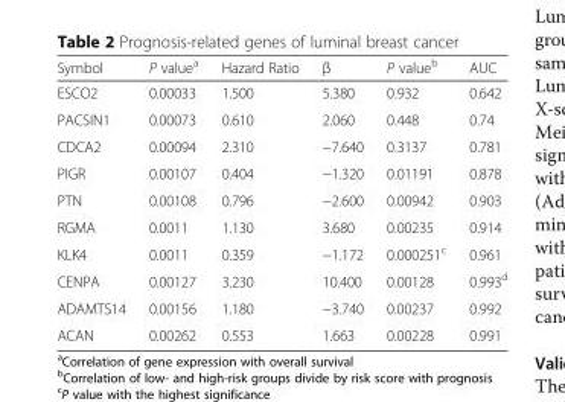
<table><thead><tr><td>Symbol</td><td>P value<sup>a</sup></td><td>Hazard Ratio</td><td>β</td><td>P value<sup>b</sup></td><td>AUC</td></tr></thead><tbody><tr><td>ESCO2</td><td>0.00033</td><td>1.500</td><td>5.380</td><td>0.932</td><td>0.642</td></tr><tr><td>PACSIN1</td><td>0.00073</td><td>0.610</td><td>2.060</td><td>0.448</td><td>0.74</td></tr><tr><td>CDCA2</td><td>0.00094</td><td>2.310</td><td>−7.640</td><td>0.3137</td><td>0.781</td></tr><tr><td>PIGR</td><td>0.00107</td><td>0.404</td><td>−1.320</td><td>0.01191</td><td>0.878</td></tr><tr><td>PTN</td><td>0.00108</td><td>0.796</td><td>−2.600</td><td>0.00942</td><td>0.903</td></tr><tr><td>RGMA</td><td>0.0011</td><td>1.130</td><td>3.680</td><td>0.00235</td><td>0.914</td></tr><tr><td>KLK4</td><td>0.0011</td><td>0.359</td><td>−1.172</td><td>0.000251<sup>c</sup></td><td>0.961</td></tr><tr><td>CENPA</td><td>0.00127</td><td>3.230</td><td>10.400</td><td>0.00128</td><td>0.993<sup>d</sup></td></tr><tr><td>ADAMTS14</td><td>0.00156</td><td>1.180</td><td>−3.740</td><td>0.00237</td><td>0.992</td></tr><tr><td>ACAN</td><td>0.00262</td><td>0.553</td><td>1.663</td><td>0.00228</td><td>0.991</td></tr></tbody></table>